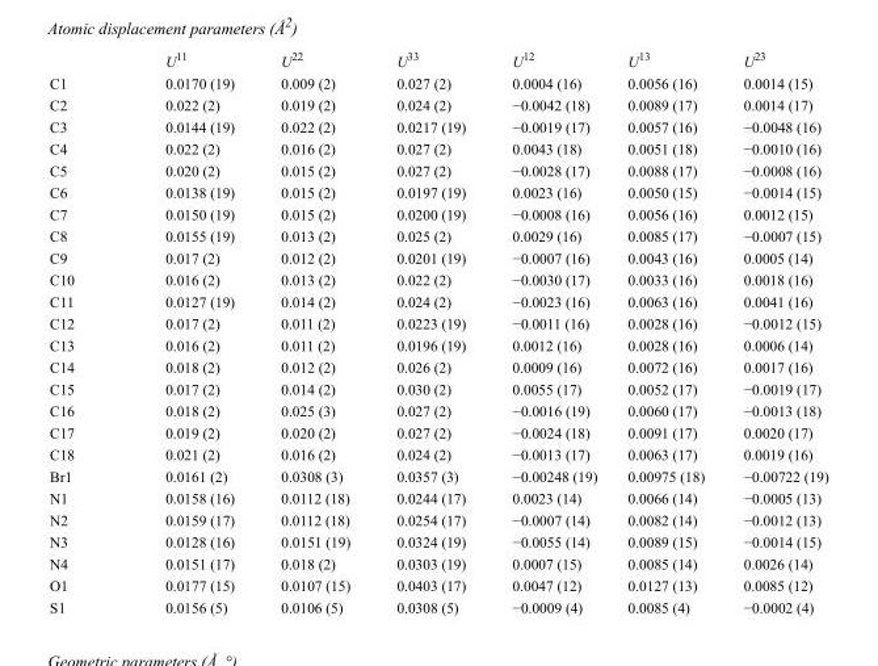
<table><thead><tr><td></td><td>U<sup>11</sup></td><td>U<sup>22</sup></td><td>U<sup>33</sup></td><td>U<sup>12</sup></td><td>U<sup>13</sup></td><td>U<sup>23</sup></td></tr></thead><tbody><tr><td>C1</td><td>0.0170 (19)</td><td>0.009 (2)</td><td>0.027 (2)</td><td>0.0004 (16)</td><td>0.0056 (16)</td><td>0.0014 (15)</td></tr><tr><td>C2</td><td>0.022 (2)</td><td>0.019 (2)</td><td>0.024 (2)</td><td>−0.0042 (18)</td><td>0.0089 (17)</td><td>0.0014 (17)</td></tr><tr><td>C3</td><td>0.0144 (19)</td><td>0.022 (2)</td><td>0.0217 (19)</td><td>−0.0019 (17)</td><td>0.0057 (16)</td><td>−0.0048 (16)</td></tr><tr><td>C4</td><td>0.022 (2)</td><td>0.016 (2)</td><td>0.027 (2)</td><td>0.0043 (18)</td><td>0.0051 (18)</td><td>−0.0010 (16)</td></tr><tr><td>C5</td><td>0.020 (2)</td><td>0.015 (2)</td><td>0.027 (2)</td><td>−0.0028 (17)</td><td>0.0088 (17)</td><td>−0.0008 (16)</td></tr><tr><td>C6</td><td>0.0138 (19)</td><td>0.015 (2)</td><td>0.0197 (19)</td><td>0.0023 (16)</td><td>0.0050 (15)</td><td>−0.0014 (15)</td></tr><tr><td>C7</td><td>0.0150 (19)</td><td>0.015 (2)</td><td>0.0200 (19)</td><td>−0.0008 (16)</td><td>0.0056 (16)</td><td>0.0012 (15)</td></tr><tr><td>C8</td><td>0.0155 (19)</td><td>0.013 (2)</td><td>0.025 (2)</td><td>0.0029 (16)</td><td>0.0085 (17)</td><td>−0.0007 (15)</td></tr><tr><td>C9</td><td>0.017 (2)</td><td>0.012 (2)</td><td>0.0201 (19)</td><td>−0.0007 (16)</td><td>0.0043 (16)</td><td>0.0005 (14)</td></tr><tr><td>C10</td><td>0.016 (2)</td><td>0.013 (2)</td><td>0.022 (2)</td><td>−0.0030 (17)</td><td>0.0033 (16)</td><td>0.0018 (16)</td></tr><tr><td>C11</td><td>0.0127 (19)</td><td>0.014 (2)</td><td>0.024 (2)</td><td>−0.0023 (16)</td><td>0.0063 (16)</td><td>0.0041 (16)</td></tr><tr><td>C12</td><td>0.017 (2)</td><td>0.011 (2)</td><td>0.0223 (19)</td><td>−0.0011 (16)</td><td>0.0028 (16)</td><td>−0.0012 (15)</td></tr><tr><td>C13</td><td>0.016 (2)</td><td>0.011 (2)</td><td>0.0196 (19)</td><td>0.0012 (16)</td><td>0.0028 (16)</td><td>0.0006 (14)</td></tr><tr><td>C14</td><td>0.018 (2)</td><td>0.012 (2)</td><td>0.026 (2)</td><td>0.0009 (16)</td><td>0.0072 (16)</td><td>0.0017 (16)</td></tr><tr><td>C15</td><td>0.017 (2)</td><td>0.014 (2)</td><td>0.030 (2)</td><td>0.0055 (17)</td><td>0.0052 (17)</td><td>−0.0019 (17)</td></tr><tr><td>C16</td><td>0.018 (2)</td><td>0.025 (3)</td><td>0.027 (2)</td><td>−0.0016 (19)</td><td>0.0060 (17)</td><td>−0.0013 (18)</td></tr><tr><td>C17</td><td>0.019 (2)</td><td>0.020 (2)</td><td>0.027 (2)</td><td>−0.0024 (18)</td><td>0.0091 (17)</td><td>0.0020 (17)</td></tr><tr><td>C18</td><td>0.021 (2)</td><td>0.016 (2)</td><td>0.024 (2)</td><td>−0.0013 (17)</td><td>0.0063 (17)</td><td>0.0019 (16)</td></tr><tr><td>Br1</td><td>0.0161 (2)</td><td>0.0308 (3)</td><td>0.0357 (3)</td><td>−0.00248 (19)</td><td>0.00975 (18)</td><td>−0.00722 (19)</td></tr><tr><td>N1</td><td>0.0158 (16)</td><td>0.0112 (18)</td><td>0.0244 (17)</td><td>0.0023 (14)</td><td>0.0066 (14)</td><td>−0.0005 (13)</td></tr><tr><td>N2</td><td>0.0159 (17)</td><td>0.0112 (18)</td><td>0.0254 (17)</td><td>−0.0007 (14)</td><td>0.0082 (14)</td><td>−0.0012 (13)</td></tr><tr><td>N3</td><td>0.0128 (16)</td><td>0.0151 (19)</td><td>0.0324 (19)</td><td>−0.0055 (14)</td><td>0.0089 (15)</td><td>−0.0014 (15)</td></tr><tr><td>N4</td><td>0.0151 (17)</td><td>0.018 (2)</td><td>0.0303 (19)</td><td>0.0007 (15)</td><td>0.0085 (14)</td><td>0.0026 (14)</td></tr><tr><td>O1</td><td>0.0177 (15)</td><td>0.0107 (15)</td><td>0.0403 (17)</td><td>0.0047 (12)</td><td>0.0127 (13)</td><td>0.0085 (12)</td></tr><tr><td>S1</td><td>0.0156 (5)</td><td>0.0106 (5)</td><td>0.0308 (5)</td><td>−0.0009 (4)</td><td>0.0085 (4)</td><td>−0.0002 (4)</td></tr></tbody></table>